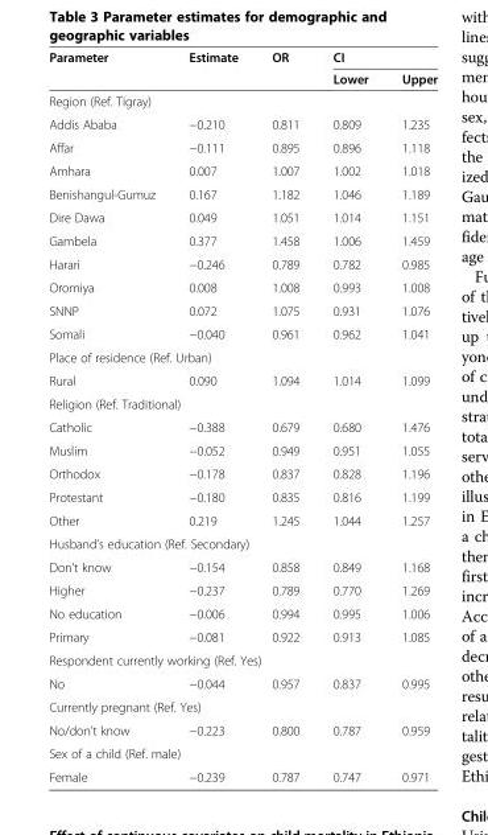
<table><thead><tr><td rowspan="2">Parameter</td><td rowspan="2">Estimate</td><td rowspan="2">OR</td><td colspan="2">CI</td></tr><tr><td>Lower</td><td>Upper</td></tr></thead><tbody><tr><td colspan="5">Region (Ref. Tigray)</td></tr><tr><td>Addis Ababa</td><td>−0.210</td><td>0.811</td><td>0.809</td><td>1.235</td></tr><tr><td>Affar</td><td>−0.111</td><td>0.895</td><td>0.896</td><td>1.118</td></tr><tr><td>Amhara</td><td>0.007</td><td>1.007</td><td>1.002</td><td>1.018</td></tr><tr><td>Benishangul-Gumuz</td><td>0.167</td><td>1.182</td><td>1.046</td><td>1.189</td></tr><tr><td>Dire Dawa</td><td>0.049</td><td>1.051</td><td>1.014</td><td>1.151</td></tr><tr><td>Gambela</td><td>0.377</td><td>1.458</td><td>1.006</td><td>1.459</td></tr><tr><td>Harari</td><td>−0.246</td><td>0.789</td><td>0.782</td><td>0.985</td></tr><tr><td>Oromiya</td><td>0.008</td><td>1.008</td><td>0.993</td><td>1.008</td></tr><tr><td>SNNP</td><td>0.072</td><td>1.075</td><td>0.931</td><td>1.076</td></tr><tr><td>Somali</td><td>−0.040</td><td>0.961</td><td>0.962</td><td>1.041</td></tr><tr><td colspan="5">Place of residence (Ref. Urban)</td></tr><tr><td>Rural</td><td>0.090</td><td>1.094</td><td>1.014</td><td>1.099</td></tr><tr><td colspan="5">Religion (Ref. Traditional)</td></tr><tr><td>Catholic</td><td>−0.388</td><td>0.679</td><td>0.680</td><td>1.476</td></tr><tr><td>Muslim</td><td>−0.052</td><td>0.949</td><td>0.951</td><td>1.055</td></tr><tr><td>Orthodox</td><td>−0.178</td><td>0.837</td><td>0.828</td><td>1.196</td></tr><tr><td>Protestant</td><td>−0.180</td><td>0.835</td><td>0.816</td><td>1.199</td></tr><tr><td>Other</td><td>0.219</td><td>1.245</td><td>1.044</td><td>1.257</td></tr><tr><td colspan="5">Husband’s education (Ref. Secondary)</td></tr><tr><td>Don’t know</td><td>−0.154</td><td>0.858</td><td>0.849</td><td>1.168</td></tr><tr><td>Higher</td><td>−0.237</td><td>0.789</td><td>0.770</td><td>1.269</td></tr><tr><td>No education</td><td>−0.006</td><td>0.994</td><td>0.995</td><td>1.006</td></tr><tr><td>Primary</td><td>−0.081</td><td>0.922</td><td>0.913</td><td>1.085</td></tr><tr><td colspan="5">Respondent currently working (Ref. Yes)</td></tr><tr><td>No</td><td>−0.044</td><td>0.957</td><td>0.837</td><td>0.995</td></tr><tr><td colspan="5">Currently pregnant (Ref. Yes)</td></tr><tr><td>No/don’t know</td><td>−0.223</td><td>0.800</td><td>0.787</td><td>0.959</td></tr><tr><td colspan="5">Sex of a child (Ref. male)</td></tr><tr><td>Female</td><td>−0.239</td><td>0.787</td><td>0.747</td><td>0.971</td></tr></tbody></table>